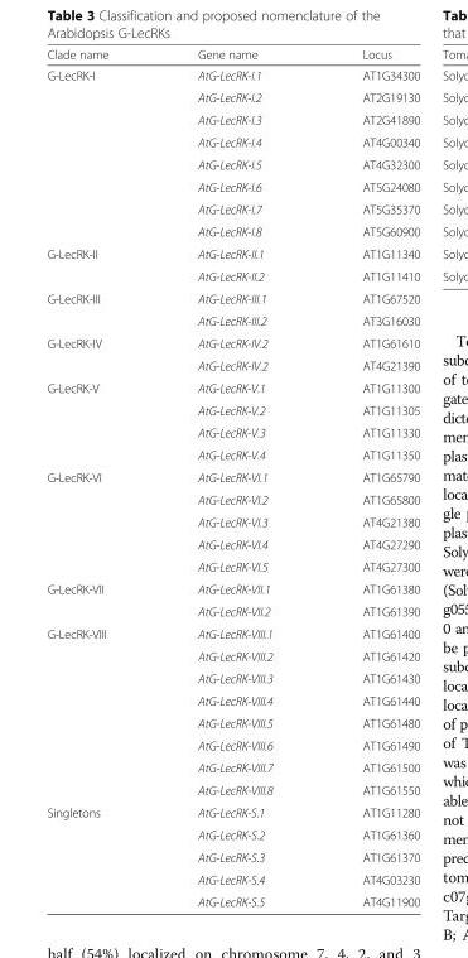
<table><thead><tr><td>Clade name</td><td>Gene name</td><td>Locus</td></tr></thead><tbody><tr><td rowspan="8">G-LecRK-I</td><td>AtG-LecRK-I.1</td><td>AT1G34300</td></tr><tr><td>AtG-LecRK-I.2</td><td>AT2G19130</td></tr><tr><td>AtG-LecRK-I.3</td><td>AT2G41890</td></tr><tr><td>AtG-LecRK-I.4</td><td>AT4G00340</td></tr><tr><td>AtG-LecRK-I.5</td><td>AT4G32300</td></tr><tr><td>AtG-LecRK-I.6</td><td>AT5G24080</td></tr><tr><td>AtG-LecRK-I.7</td><td>AT5G35370</td></tr><tr><td>AtG-LecRK-I.8</td><td>AT5G60900</td></tr><tr><td rowspan="2">G-LecRK-II</td><td>AtG-LecRK-II.1</td><td>AT1G11340</td></tr><tr><td>AtG-LecRK-II.2</td><td>AT1G11410</td></tr><tr><td rowspan="2">G-LecRK-III</td><td>AtG-LecRK-III.1</td><td>AT1G67520</td></tr><tr><td>AtG-LecRK-III.2</td><td>AT3G16030</td></tr><tr><td rowspan="2">G-LecRK-IV</td><td>AtG-LecRK-IV.2</td><td>AT1G61610</td></tr><tr><td>AtG-LecRK-IV.2</td><td>AT4G21390</td></tr><tr><td rowspan="4">G-LecRK-V</td><td>AtG-LecRK-V.1</td><td>AT1G11300</td></tr><tr><td>AtG-LecRK-V.2</td><td>AT1G11305</td></tr><tr><td>AtG-LecRK-V.3</td><td>AT1G11330</td></tr><tr><td>AtG-LecRK-V.4</td><td>AT1G11350</td></tr><tr><td rowspan="5">G-LecRK-VI</td><td>AtG-LecRK-VI.1</td><td>AT1G65790</td></tr><tr><td>AtG-LecRK-VI.2</td><td>AT1G65800</td></tr><tr><td>AtG-LecRK-VI.3</td><td>AT4G21380</td></tr><tr><td>AtG-LecRK-VI.4</td><td>AT4G27290</td></tr><tr><td>AtG-LecRK-VI.5</td><td>AT4G27300</td></tr><tr><td rowspan="2">G-LecRK-VII</td><td>AtG-LecRK-VII.1</td><td>AT1G61380</td></tr><tr><td>AtG-LecRK-VII.2</td><td>AT1G61390</td></tr><tr><td rowspan="8">G-LecRK-VIII</td><td>AtG-LecRK-VIII.1</td><td>AT1G61400</td></tr><tr><td>AtG-LecRK-VIII.2</td><td>AT1G61420</td></tr><tr><td>AtG-LecRK-VIII.3</td><td>AT1G61430</td></tr><tr><td>AtG-LecRK-VIII.4</td><td>AT1G61440</td></tr><tr><td>AtG-LecRK-VIII.5</td><td>AT1G61480</td></tr><tr><td>AtG-LecRK-VIII.6</td><td>AT1G61490</td></tr><tr><td>AtG-LecRK-VIII.7</td><td>AT1G61500</td></tr><tr><td>AtG-LecRK-VIII.8</td><td>AT1G61550</td></tr><tr><td rowspan="5">Singletons</td><td>AtG-LecRK-S.1</td><td>AT1G11280</td></tr><tr><td>AtG-LecRK-S.2</td><td>AT1G61360</td></tr><tr><td>AtG-LecRK-S.3</td><td>AT1G61370</td></tr><tr><td>AtG-LecRK-S.4</td><td>AT4G03230</td></tr><tr><td>AtG-LecRK-S.5</td><td>AT4G11900</td></tr></tbody></table>